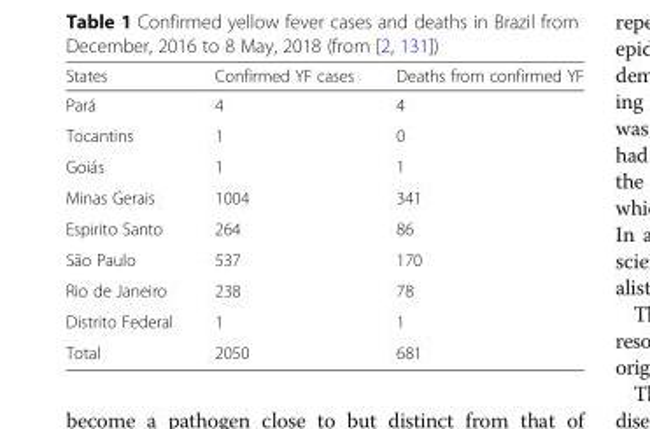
<table><thead><tr><td>States</td><td>Confirmed YF cases</td><td>Deaths from confirmed YF</td></tr></thead><tbody><tr><td>Pará</td><td>4</td><td>4</td></tr><tr><td>Tocantins</td><td>1</td><td>0</td></tr><tr><td>Goiás</td><td>1</td><td>1</td></tr><tr><td>Minas Gerais</td><td>1004</td><td>341</td></tr><tr><td>Espirito Santo</td><td>264</td><td>86</td></tr><tr><td>São Paulo</td><td>537</td><td>170</td></tr><tr><td>Rio de Janeiro</td><td>238</td><td>78</td></tr><tr><td>Distrito Federal</td><td>1</td><td>1</td></tr><tr><td>Total</td><td>2050</td><td>681</td></tr></tbody></table>